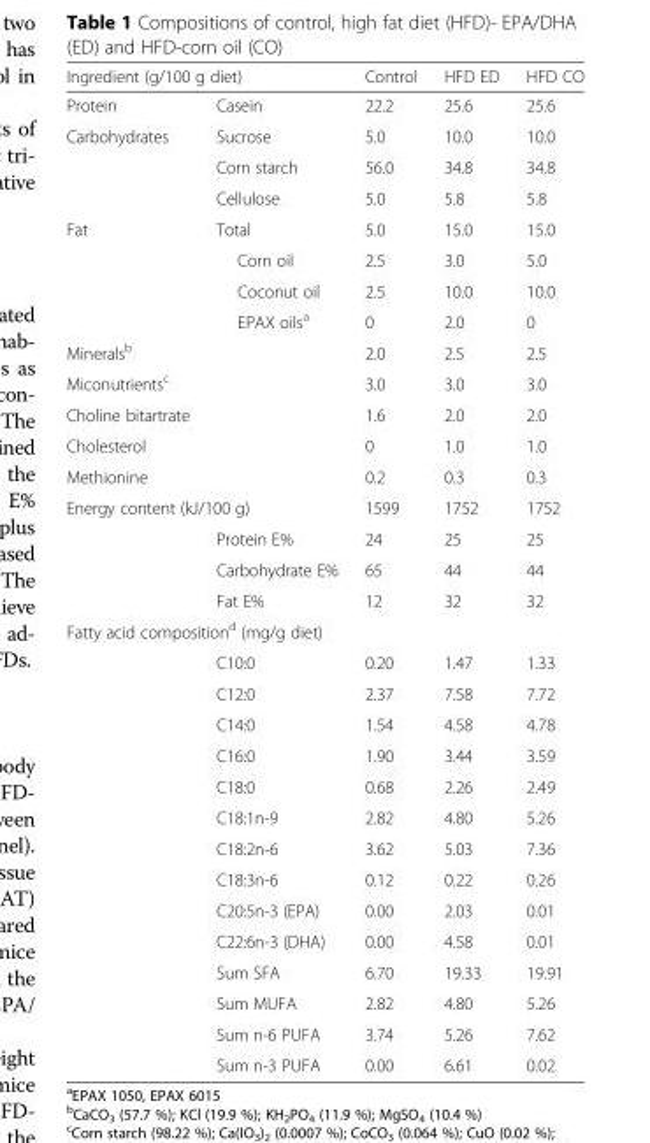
<table><thead><tr><td colspan="2">Ingredient (g/100 g diet)</td><td rowspan="2">Control 22.2</td><td rowspan="2">HFD ED 25.6</td><td rowspan="2">HFD CO 25.6</td></tr><tr><td>Protein</td><td>Casein</td></tr></thead><tbody><tr><td rowspan="3">Carbohydrates</td><td>Sucrose</td><td>5.0</td><td>10.0</td><td>10.0</td></tr><tr><td>Corn starch</td><td>56.0</td><td>34.8</td><td>34.8</td></tr><tr><td>Cellulose</td><td>5.0</td><td>5.8</td><td>5.8</td></tr><tr><td rowspan="4">Fat</td><td>Total</td><td>5.0</td><td>15.0</td><td>15.0</td></tr><tr><td>Corn oil</td><td>2.5</td><td>3.0</td><td>5.0</td></tr><tr><td>Coconut oil</td><td>2.5</td><td>10.0</td><td>10.0</td></tr><tr><td>EPAX oils<sup>a</sup></td><td>0</td><td>2.0</td><td>0</td></tr><tr><td>Minerals<sup>b</sup></td><td></td><td>2.0</td><td>2.5</td><td>2.5</td></tr><tr><td>Miconutrients<sup>c</sup></td><td></td><td>3.0</td><td>3.0</td><td>3.0</td></tr><tr><td>Choline bitartrate</td><td></td><td>1.6</td><td>2.0</td><td>2.0</td></tr><tr><td>Cholesterol</td><td></td><td>0</td><td>1.0</td><td>1.0</td></tr><tr><td>Methionine</td><td></td><td>0.2</td><td>0.3</td><td>0.3</td></tr><tr><td colspan="2">Energy content (kJ/100 g)</td><td>1599</td><td>1752</td><td>1752</td></tr><tr><td></td><td>Protein E%</td><td>24</td><td>25</td><td>25</td></tr><tr><td></td><td>Carbohydrate E%</td><td>65</td><td>44</td><td>44</td></tr><tr><td></td><td>Fat E%</td><td>12</td><td>32</td><td>32</td></tr><tr><td colspan="5">Fatty acid composition<sup>d</sup> (mg/g diet)</td></tr><tr><td></td><td>C10:0</td><td>0.20</td><td>1.47</td><td>1.33</td></tr><tr><td></td><td>C12:0</td><td>2.37</td><td>7.58</td><td>7.72</td></tr><tr><td></td><td>C14:0</td><td>1.54</td><td>4.58</td><td>4.78</td></tr><tr><td></td><td>C16:0</td><td>1.90</td><td>3.44</td><td>3.59</td></tr><tr><td></td><td>C18:0</td><td>0.68</td><td>2.26</td><td>2.49</td></tr><tr><td></td><td>C18:1n-9</td><td>2.82</td><td>4.80</td><td>5.26</td></tr><tr><td></td><td>C18:2n-6</td><td>3.62</td><td>5.03</td><td>7.36</td></tr><tr><td></td><td>C18:3n-6</td><td>0.12</td><td>0.22</td><td>0.26</td></tr><tr><td></td><td>C20:5n-3 (EPA)</td><td>0.00</td><td>2.03</td><td>0.01</td></tr><tr><td></td><td>C22:6n-3 (DHA)</td><td>0.00</td><td>4.58</td><td>0.01</td></tr><tr><td></td><td>Sum SFA</td><td>6.70</td><td>19.33</td><td>19.91</td></tr><tr><td></td><td>Sum MUFA</td><td>2.82</td><td>4.80</td><td>5.26</td></tr><tr><td></td><td>Sum n-6 PUFA</td><td>3.74</td><td>5.26</td><td>7.62</td></tr><tr><td></td><td>Sum n-3 PUFA</td><td>0.00</td><td>6.61</td><td>0.02</td></tr></tbody></table>